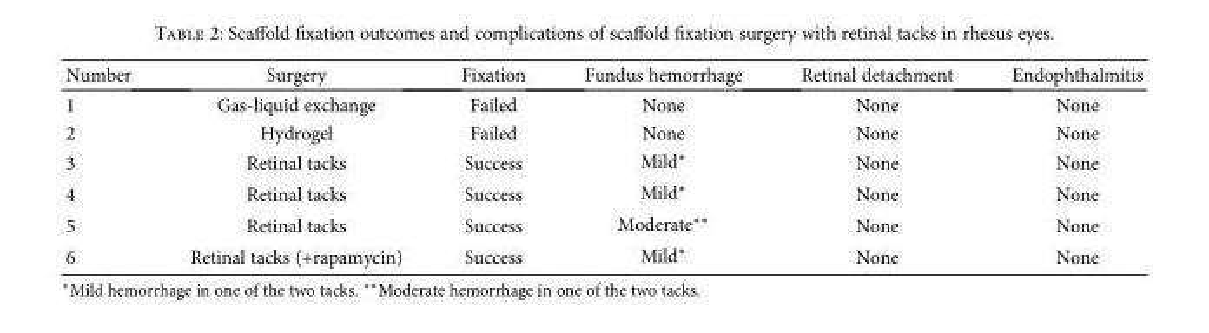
<table><thead><tr><td>Number</td><td>Surgery</td><td>Fixation</td><td>Fundus hemorrhage</td><td>Retinal detachment</td><td>Endophthalmitis</td></tr></thead><tbody><tr><td>1</td><td>Gas-liquid exchange</td><td>Failed</td><td>None</td><td>None</td><td>None</td></tr><tr><td>2</td><td>Hydrogel</td><td>Failed</td><td>None</td><td>None</td><td>None</td></tr><tr><td>3</td><td>Retinal tacks</td><td>Success</td><td>Mild∗</td><td>None</td><td>None</td></tr><tr><td>4</td><td>Retinal tacks</td><td>Success</td><td>Mild∗</td><td>None</td><td>None</td></tr><tr><td>5</td><td>Retinal tacks</td><td>Success</td><td>Moderate∗∗</td><td>None</td><td>None</td></tr><tr><td>6</td><td>Retinal tacks (+rapamycin)</td><td>Success</td><td>Mild∗</td><td>None</td><td>None</td></tr></tbody></table>